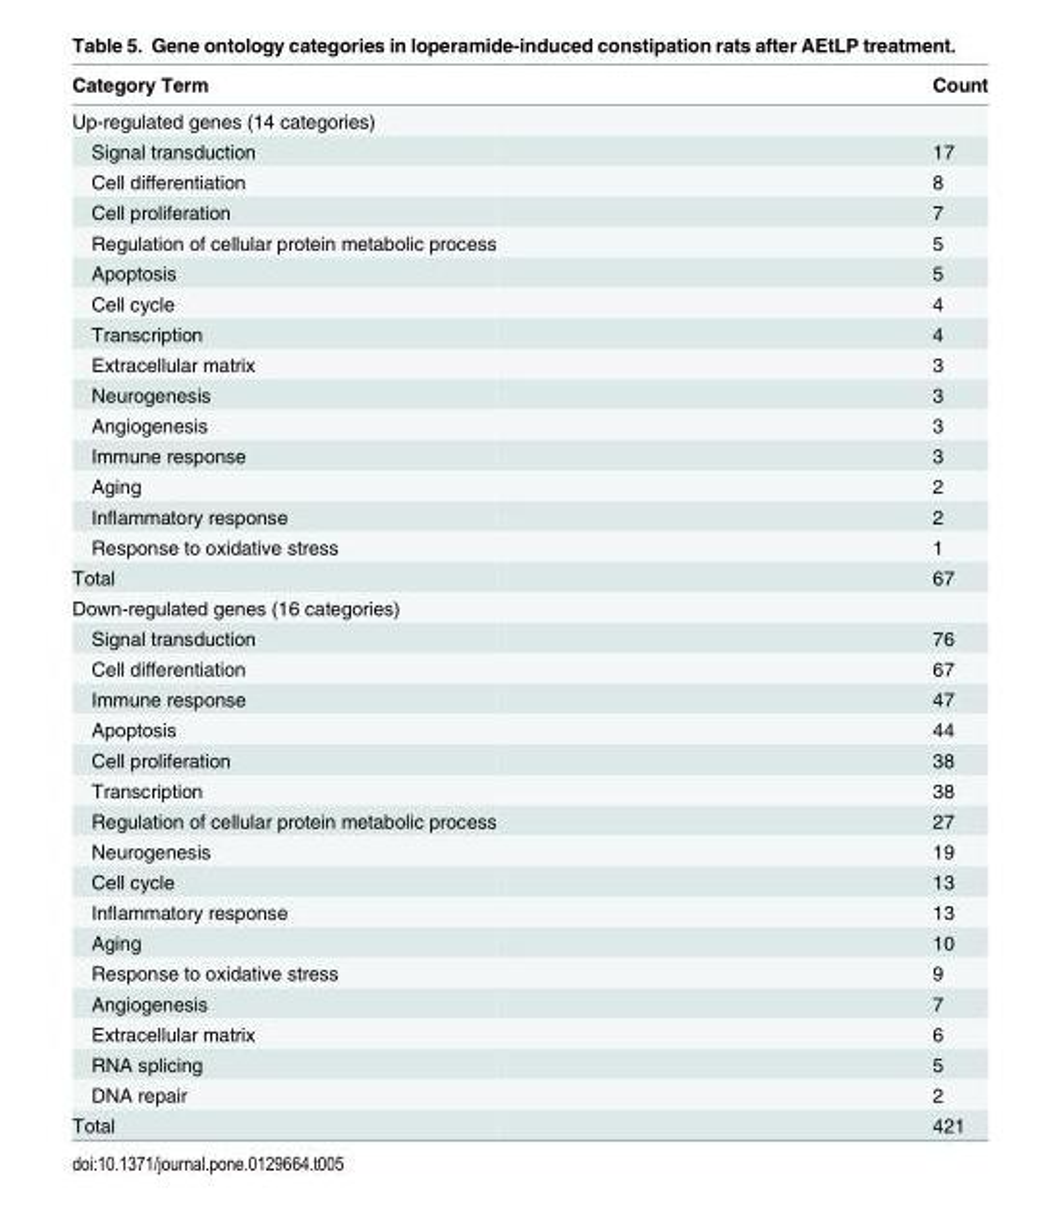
<table><thead><tr><td>Category Term</td><td>Count</td></tr></thead><tbody><tr><td colspan="2">Up-regulated genes (14 categories)</td></tr><tr><td>Signal transduction</td><td>17</td></tr><tr><td>Cell differentiation</td><td>8</td></tr><tr><td>Cell proliferation</td><td>7</td></tr><tr><td>Regulation of cellular protein metabolic process</td><td>5</td></tr><tr><td>Apoptosis</td><td>5</td></tr><tr><td>Cell cycle</td><td>4</td></tr><tr><td>Transcription</td><td>4</td></tr><tr><td>Extracellular matrix</td><td>3</td></tr><tr><td>Neurogenesis</td><td>3</td></tr><tr><td>Angiogenesis</td><td>3</td></tr><tr><td>Immune response</td><td>3</td></tr><tr><td>Aging</td><td>2</td></tr><tr><td>Inflammatory response</td><td>2</td></tr><tr><td>Response to oxidative stress</td><td>1</td></tr><tr><td>Total</td><td>67</td></tr><tr><td colspan="2">Down-regulated genes (16 categories)</td></tr><tr><td>Signal transduction</td><td>76</td></tr><tr><td>Cell differentiation</td><td>67</td></tr><tr><td>Immune response</td><td>47</td></tr><tr><td>Apoptosis</td><td>44</td></tr><tr><td>Cell proliferation</td><td>38</td></tr><tr><td>Transcription</td><td>38</td></tr><tr><td>Regulation of cellular protein metabolic process</td><td>27</td></tr><tr><td>Neurogenesis</td><td>19</td></tr><tr><td>Cell cycle</td><td>13</td></tr><tr><td>Inflammatory response</td><td>13</td></tr><tr><td>Aging</td><td>10</td></tr><tr><td>Response to oxidative stress</td><td>9</td></tr><tr><td>Angiogenesis</td><td>7</td></tr><tr><td>Extracellular matrix</td><td>6</td></tr><tr><td>RNA splicing</td><td>5</td></tr><tr><td>DNA repair</td><td>2</td></tr><tr><td>Total</td><td>421</td></tr></tbody></table>